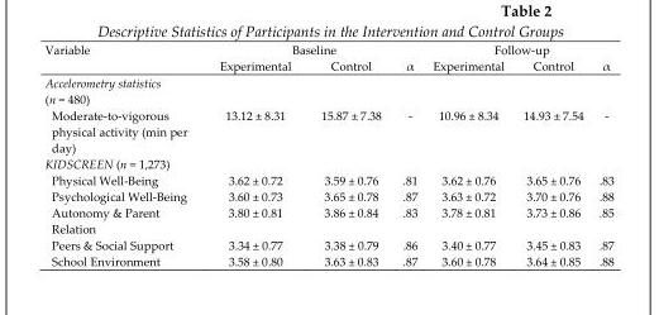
<table><thead><tr><td rowspan="2">Variable</td><td colspan="2">Baseline</td><td rowspan="2">α</td><td colspan="2">Follow-up</td><td rowspan="2">α</td></tr><tr><td>Experimental</td><td>Control</td><td>Experimental</td><td>Control</td></tr></thead><tbody><tr><td colspan="7">Accelerometry statistics (n = 480)</td></tr><tr><td>Moderate-to-vigorous physical activity (min per day)</td><td>13.12 ± 8.31</td><td>15.87 ± 7.38</td><td>-</td><td>10.96 ± 8.34</td><td>14.93 ± 7.54</td><td>-</td></tr><tr><td colspan="7">KIDSCREEN (n = 1,273)</td></tr><tr><td>Physical Well-Being</td><td>3.62 ± 0.72</td><td>3.59 ± 0.76</td><td>.81</td><td>3.62 ± 0.76</td><td>3.65 ± 0.76</td><td>.83</td></tr><tr><td>Psychological Well-Being</td><td>3.60 ± 0.73</td><td>3.65 ± 0.78</td><td>.87</td><td>3.63 ± 0.72</td><td>3.70 ± 0.76</td><td>.88</td></tr><tr><td>Autonomy &amp; Parent Relation</td><td>3.80 ± 0.81</td><td>3.86 ± 0.84</td><td>.83</td><td>3.78 ± 0.81</td><td>3.73 ± 0.86</td><td>.85</td></tr><tr><td>Peers &amp; Social Support</td><td>3.34 ± 0.77</td><td>3.38 ± 0.79</td><td>.86</td><td>3.40 ± 0.77</td><td>3.45 ± 0.83</td><td>.87</td></tr><tr><td>School Environment</td><td>3.58 ± 0.80</td><td>3.63 ± 0.83</td><td>.87</td><td>3.60 ± 0.78</td><td>3.64 ± 0.85</td><td>.88</td></tr></tbody></table>